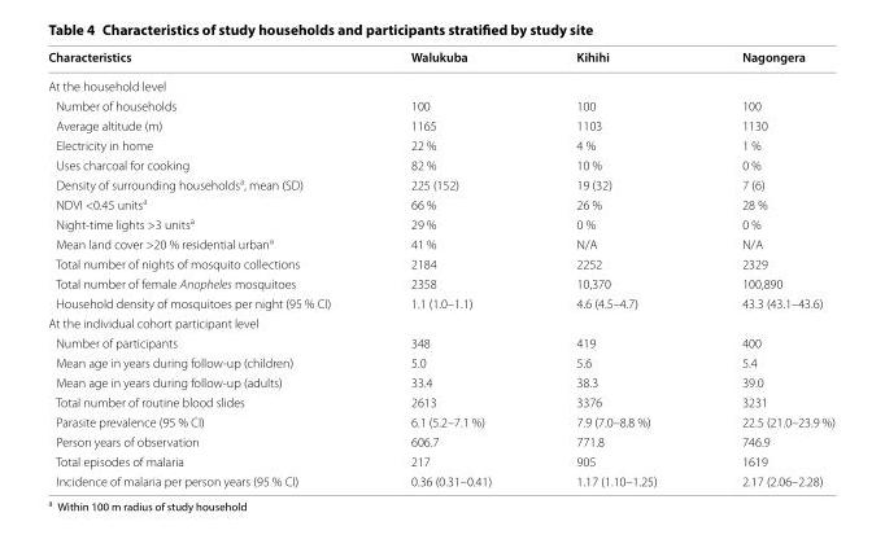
<table><thead><tr><td>Characteristics</td><td>Walukuba</td><td>Kihihi</td><td>Nagongera</td></tr></thead><tbody><tr><td colspan="4">At the household level</td></tr><tr><td>Number of households</td><td>100</td><td>100</td><td>100</td></tr><tr><td>Average altitude (m)</td><td>1165</td><td>1103</td><td>1130</td></tr><tr><td>Electricity in home</td><td>22 %</td><td>4 %</td><td>1 %</td></tr><tr><td>Uses charcoal for cooking</td><td>82 %</td><td>10 %</td><td>0 %</td></tr><tr><td>Density of surrounding households<sup>a</sup>, mean (SD)</td><td>225 (152)</td><td>19 (32)</td><td>7 (6)</td></tr><tr><td>NDVI &lt;0.45 units<sup>a</sup></td><td>66 %</td><td>26 %</td><td>28 %</td></tr><tr><td>Night-time lights &gt;3 units<sup>a</sup></td><td>29 %</td><td>0 %</td><td>0 %</td></tr><tr><td>Mean land cover &gt;20 % residential urban<sup>a</sup></td><td>41 %</td><td>N/A</td><td>N/A</td></tr><tr><td>Total number of nights of mosquito collections</td><td>2184</td><td>2252</td><td>2329</td></tr><tr><td>Total number of female Anopheles mosquitoes</td><td>2358</td><td>10,370</td><td>100,890</td></tr><tr><td>Household density of mosquitoes per night (95 % CI)</td><td>1.1 (1.0–1.1)</td><td>4.6 (4.5–4.7)</td><td>43.3 (43.1–43.6)</td></tr><tr><td colspan="4">At the individual cohort participant level</td></tr><tr><td>Number of participants</td><td>348</td><td>419</td><td>400</td></tr><tr><td>Mean age in years during follow-up (children)</td><td>5.0</td><td>5.6</td><td>5.4</td></tr><tr><td>Mean age in years during follow-up (adults)</td><td>33.4</td><td>38.3</td><td>39.0</td></tr><tr><td>Total number of routine blood slides</td><td>2613</td><td>3376</td><td>3231</td></tr><tr><td>Parasite prevalence (95 % CI)</td><td>6.1 (5.2–7.1 %)</td><td>7.9 (7.0–8.8 %)</td><td>22.5 (21.0–23.9 %)</td></tr><tr><td>Person years of observation</td><td>606.7</td><td>771.8</td><td>746.9</td></tr><tr><td>Total episodes of malaria</td><td>217</td><td>905</td><td>1619</td></tr><tr><td>Incidence of malaria per person years (95 % CI)</td><td>0.36 (0.31–0.41)</td><td>1.17 (1.10–1.25)</td><td>2.17 (2.06–2.28)</td></tr></tbody></table>